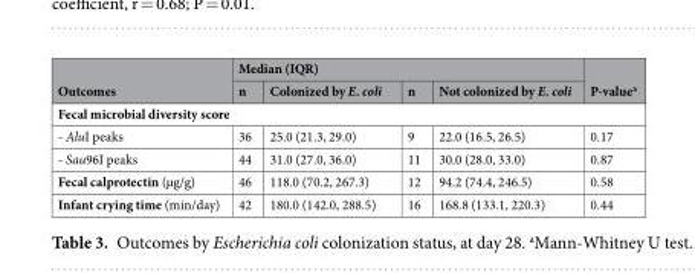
<table><thead><tr><td rowspan="2">Outcomes</td><td colspan="4">Median (IQR)</td><td rowspan="2">P-value<sup>a</sup></td></tr><tr><td>n</td><td>Colonized by E. coli</td><td>n</td><td>Not colonized by E. coli</td></tr></thead><tbody><tr><td colspan="6">Fecal microbial diversity score</td></tr><tr><td>- AluI peaks</td><td>36</td><td>25.0 (21.3, 29.0)</td><td>9</td><td>22.0 (16.5, 26.5)</td><td>0.17</td></tr><tr><td>- Sau96I peaks</td><td>44</td><td>31.0 (27.0, 36.0)</td><td>11</td><td>30.0 (28.0, 33.0)</td><td>0.87</td></tr><tr><td>Fecal calprotectin (µg/g)</td><td>46</td><td>118.0 (70.2, 267.3)</td><td>12</td><td>94.2 (74.4, 246.5)</td><td>0.58</td></tr><tr><td>Infant crying time (min/day)</td><td>42</td><td>180.0 (142.0, 288.5)</td><td>16</td><td>168.8 (133.1, 220.3)</td><td>0.44</td></tr></tbody></table>